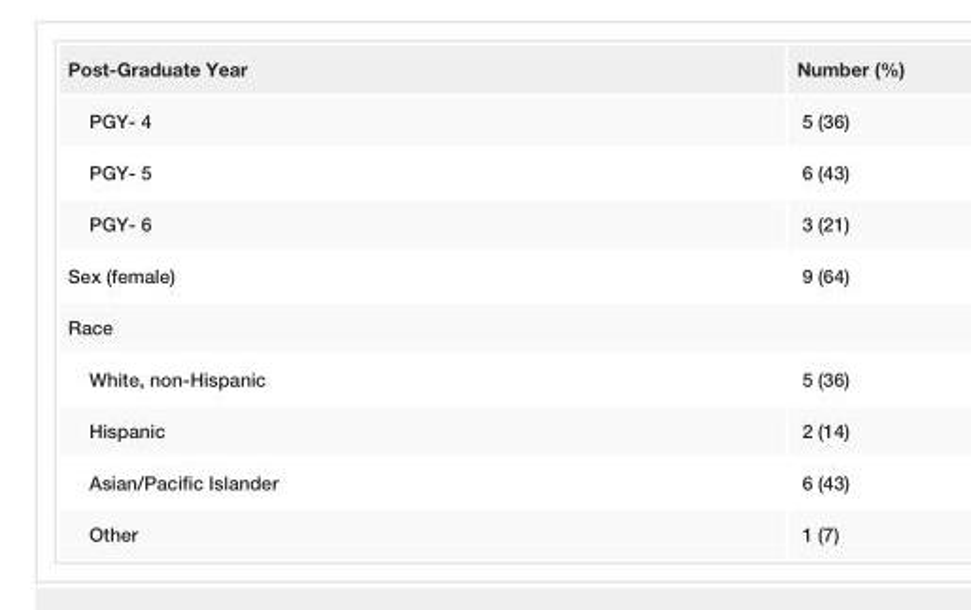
<table><tbody><tr><td>Post-Graduate Year</td><td>Number (%)</td></tr><tr><td>PGY- 4</td><td>5 (36)</td></tr><tr><td>PGY- 5</td><td>6 (43)</td></tr><tr><td>PGY- 6</td><td>3 (21)</td></tr><tr><td>Sex (female)</td><td>9 (64)</td></tr><tr><td colspan="2">Race</td></tr><tr><td>White, non-Hispanic</td><td>5 (36)</td></tr><tr><td>Hispanic</td><td>2 (14)</td></tr><tr><td>Asian/Pacific Islander</td><td>6 (43)</td></tr><tr><td>Other</td><td>1 (7)</td></tr></tbody></table>